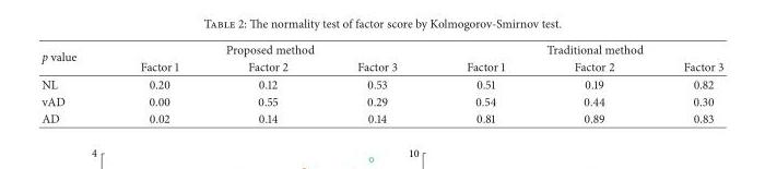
<table><thead><tr><td rowspan="2">p value</td><td colspan="3">Proposed method</td><td colspan="3">Traditional method</td></tr><tr><td>Factor 1</td><td>Factor 2</td><td>Factor 3</td><td>Factor 1</td><td>Factor 2</td><td>Factor 3</td></tr></thead><tbody><tr><td>NL</td><td>0.20</td><td>0.12</td><td>0.53</td><td>0.51</td><td>0.19</td><td>0.82</td></tr><tr><td>vAD</td><td>0.00</td><td>0.55</td><td>0.29</td><td>0.54</td><td>0.44</td><td>0.30</td></tr><tr><td>AD</td><td>0.02</td><td>0.14</td><td>0.14</td><td>0.81</td><td>0.89</td><td>0.83</td></tr></tbody></table>